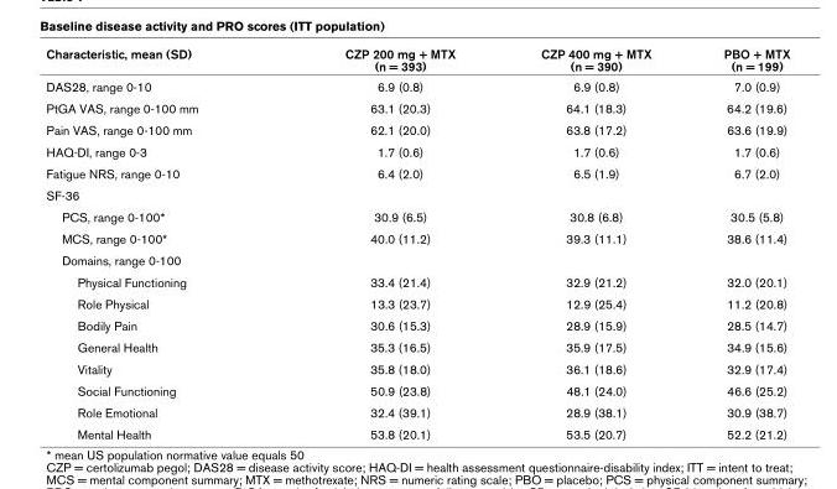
<table><thead><tr><td>Characteristic, mean (SD)</td><td>CZP 200 mg + MTX (n = 393)</td><td>CZP 400 mg + MTX (n = 390)</td><td>PBO + MTX (n = 199)</td></tr></thead><tbody><tr><td>DAS28, range 0-10</td><td>6.9 (0.8)</td><td>6.9 (0.8)</td><td>7.0 (0.9)</td></tr><tr><td>PtGA VAS, range 0-100 mm</td><td>63.1 (20.3)</td><td>64.1 (18.3)</td><td>64.2 (19.6)</td></tr><tr><td>Pain VAS, range 0-100 mm</td><td>62.1 (20.0)</td><td>63.8 (17.2)</td><td>63.6 (19.9)</td></tr><tr><td>HAQ-DI, range 0-3</td><td>1.7 (0.6)</td><td>1.7 (0.6)</td><td>1.7 (0.6)</td></tr><tr><td>Fatigue NRS, range 0-10</td><td>6.4 (2.0)</td><td>6.5 (1.9)</td><td>6.7 (2.0)</td></tr><tr><td colspan="4">SF-36</td></tr><tr><td>PCS, range 0-100*</td><td>30.9 (6.5)</td><td>30.8 (6.8)</td><td>30.5 (5.8)</td></tr><tr><td>MCS, range 0-100*</td><td>40.0 (11.2)</td><td>39.3 (11.1)</td><td>38.6 (11.4)</td></tr><tr><td colspan="4">Domains, range 0-100</td></tr><tr><td>Physical Functioning</td><td>33.4 (21.4)</td><td>32.9 (21.2)</td><td>32.0 (20.1)</td></tr><tr><td>Role Physical</td><td>13.3 (23.7)</td><td>12.9 (25.4)</td><td>11.2 (20.8)</td></tr><tr><td>Bodily Pain</td><td>30.6 (15.3)</td><td>28.9 (15.9)</td><td>28.5 (14.7)</td></tr><tr><td>General Health</td><td>35.3 (16.5)</td><td>35.9 (17.5)</td><td>34.9 (15.6)</td></tr><tr><td>Vitality</td><td>35.8 (18.0)</td><td>36.1 (18.6)</td><td>32.9 (17.4)</td></tr><tr><td>Social Functioning</td><td>50.9 (23.8)</td><td>48.1 (24.0)</td><td>46.6 (25.2)</td></tr><tr><td>Role Emotional</td><td>32.4 (39.1)</td><td>28.9 (38.1)</td><td>30.9 (38.7)</td></tr><tr><td>Mental Health</td><td>53.8 (20.1)</td><td>53.5 (20.7)</td><td>52.2 (21.2)</td></tr></tbody></table>